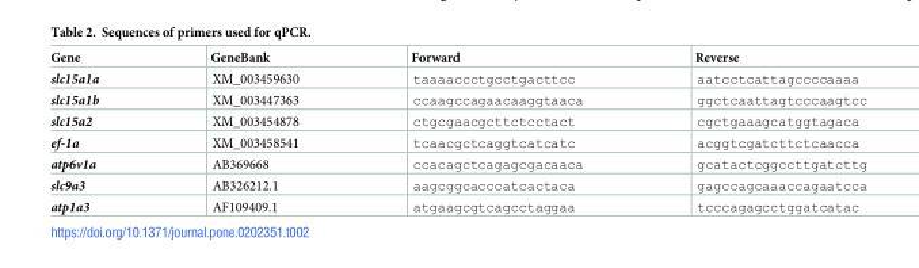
<table><thead><tr><td>Gene</td><td>GeneBank</td><td>Forward</td><td>Reverse</td></tr></thead><tbody><tr><td>slc15a1a</td><td>XM_003459630</td><td>taaaaccctgcctgacttcc</td><td>aatcctcattagccccaaaa</td></tr><tr><td>slc15a1b</td><td>XM_003447363</td><td>ccaagccagaacaaggtaaca</td><td>ggctcaattagtcccaagtcc</td></tr><tr><td>slc15a2</td><td>XM_003454878</td><td>ctgcgaacgcttctcctact</td><td>cgctgaaagcatggtagaca</td></tr><tr><td>ef-1a</td><td>XM_003458541</td><td>tcaacgctcaggtcatcatc</td><td>acggtcgatcttctcaacca</td></tr><tr><td>atp6v1a</td><td>AB369668</td><td>ccacagctcagagcgacaaca</td><td>gcatactcggccttgatcttg</td></tr><tr><td>slc9a3</td><td>AB326212.1</td><td>aagcggcacccatcactaca</td><td>gagccagcaaaccagaatcca</td></tr><tr><td>atp1a3</td><td>AF109409.1</td><td>atgaagcgtcagcctaggaa</td><td>tcccagagcctggatcatac</td></tr></tbody></table>